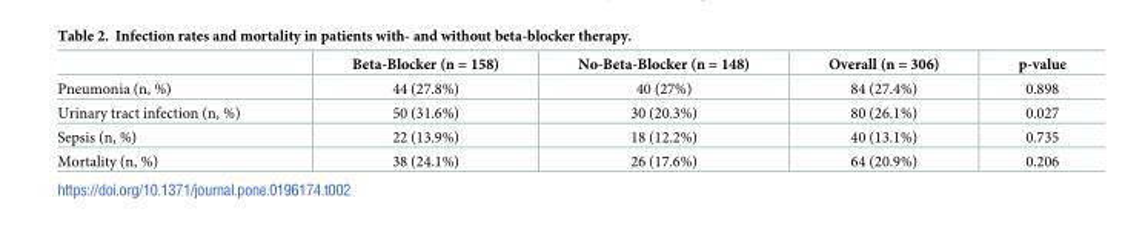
<table><thead><tr><td></td><td>Beta-Blocker (n = 158)</td><td>No-Beta-Blocker (n = 148)</td><td>Overall (n = 306)</td><td>p-value</td></tr></thead><tbody><tr><td>Pneumonia (n, %)</td><td>44 (27.8%)</td><td>40 (27%)</td><td>84 (27.4%)</td><td>0.898</td></tr><tr><td>Urinary tract infection (n, %)</td><td>50 (31.6%)</td><td>30 (20.3%)</td><td>80 (26.1%)</td><td>0.027</td></tr><tr><td>Sepsis (n, %)</td><td>22 (13.9%)</td><td>18 (12.2%)</td><td>40 (13.1%)</td><td>0.735</td></tr><tr><td>Mortality (n, %)</td><td>38 (24.1%)</td><td>26 (17.6%)</td><td>64 (20.9%)</td><td>0.206</td></tr></tbody></table>